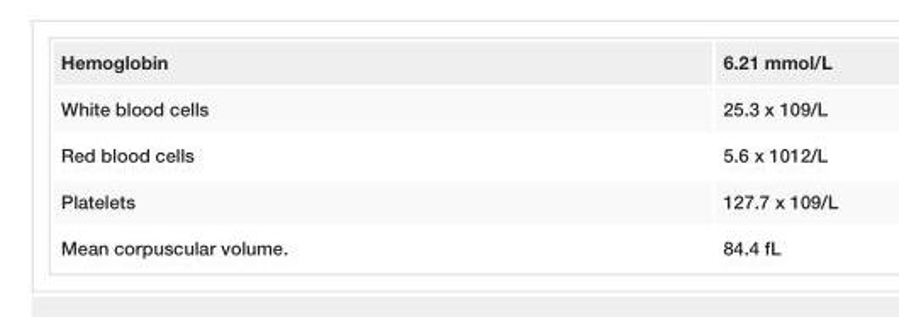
<table><tbody><tr><td>Hemoglobin</td><td>6.21 mmol/L</td></tr><tr><td>White blood cells</td><td>25.3 x 109/L</td></tr><tr><td>Red blood cells</td><td>5.6 x 1012/L</td></tr><tr><td>Platelets</td><td>127.7 x 109/L</td></tr><tr><td>Mean corpuscular volume.</td><td>84.4 fL</td></tr></tbody></table>